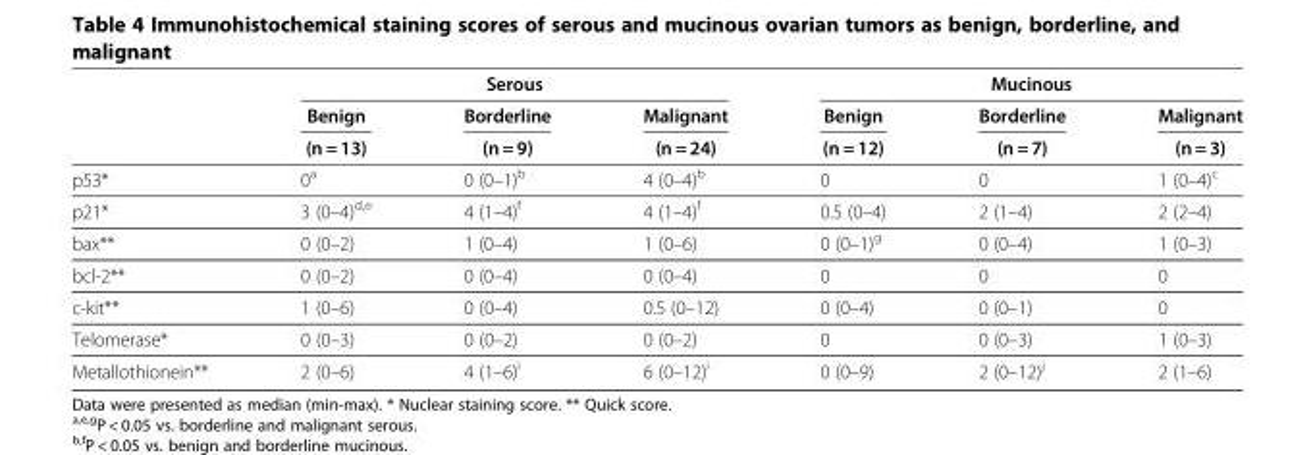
<table><thead><tr><td rowspan="3"></td><td colspan="3">Serous</td><td colspan="3">Mucinous</td></tr><tr><td rowspan="2">Benign (n = 13)</td><td rowspan="2">Borderline (n = 9)</td><td rowspan="2">Malignant (n = 24)</td><td rowspan="2">Benign (n = 12)</td><td rowspan="2">Borderline (n = 7)</td><td rowspan="2">Malignant (n = 3)</td></tr><tr></tr></thead><tbody><tr><td>p53*</td><td>0<sup>a</sup></td><td>0 (0–1)<sup>b</sup></td><td>4 (0–4)<sup>b</sup></td><td>0</td><td>0</td><td>1 (0–4)<sup>c</sup></td></tr><tr><td>p21*</td><td>3 (0–4)<sup>d,e</sup></td><td>4 (1–4)<sup>f</sup></td><td>4 (1–4)<sup>f</sup></td><td>0.5 (0–4)</td><td>2 (1–4)</td><td>2 (2–4)</td></tr><tr><td>bax**</td><td>0 (0–2)</td><td>1 (0–4)</td><td>1 (0–6)</td><td>0 (0–1)<sup>g</sup></td><td>0 (0–4)</td><td>1 (0–3)</td></tr><tr><td>bcl-2**</td><td>0 (0–2)</td><td>0 (0–4)</td><td>0 (0–4)</td><td>0</td><td>0</td><td>0</td></tr><tr><td>c-kit**</td><td>1 (0–6)</td><td>0 (0–4)</td><td>0.5 (0–12)</td><td>0 (0–4)</td><td>0 (0–1)</td><td>0</td></tr><tr><td>Telomerase*</td><td>0 (0–3)</td><td>0 (0–2)</td><td>0 (0–2)</td><td>0</td><td>0 (0–3)</td><td>1 (0–3)</td></tr><tr><td>Metallothionein**</td><td>2 (0–6)</td><td>4 (1–6)<sup>i</sup></td><td>6 (0–12)<sup>i</sup></td><td>0 (0–9)</td><td>2 (0–12)<sup>j</sup></td><td>2 (1–6)</td></tr></tbody></table>